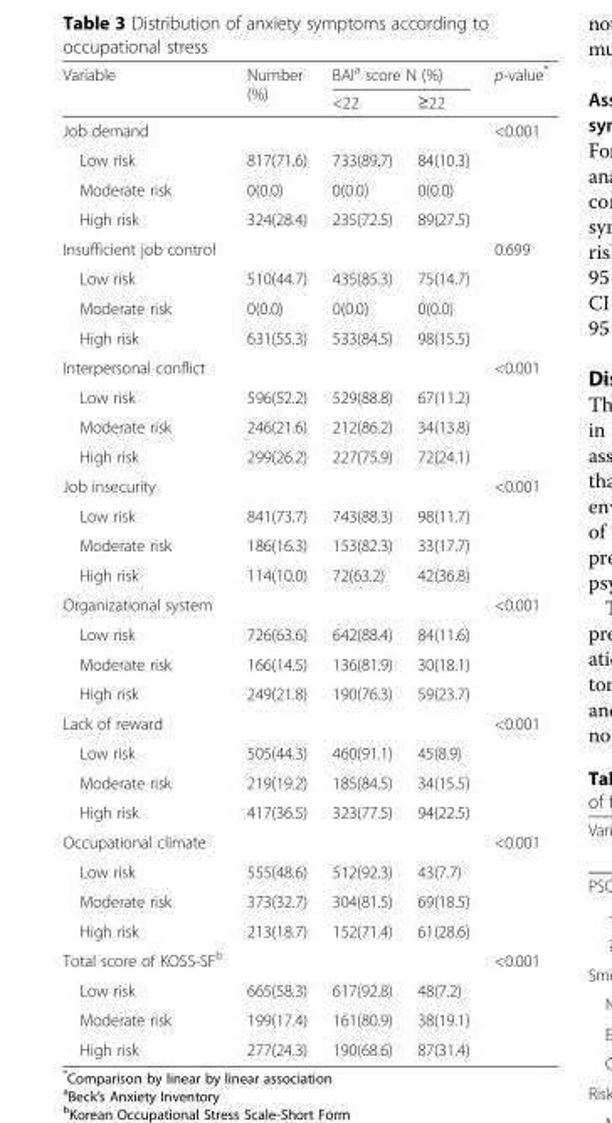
<table><thead><tr><td rowspan="2">Variable</td><td rowspan="2">Number (%)</td><td colspan="2">BAI<sup>a</sup> score N (%)</td><td rowspan="2">p-value*</td></tr><tr><td>&lt;22</td><td>≥22</td></tr></thead><tbody><tr><td>Job demand</td><td></td><td></td><td></td><td>&lt;0.001</td></tr><tr><td>Low risk</td><td>817(71.6)</td><td>733(89.7)</td><td>84(10.3)</td><td></td></tr><tr><td>Moderate risk</td><td>0(0.0)</td><td>0(0.0)</td><td>0(0.0)</td><td></td></tr><tr><td>High risk</td><td>324(28.4)</td><td>235(72.5)</td><td>89(27.5)</td><td></td></tr><tr><td>Insufficient job control</td><td></td><td></td><td></td><td>0.699</td></tr><tr><td>Low risk</td><td>510(44.7)</td><td>435(85.3)</td><td>75(14.7)</td><td></td></tr><tr><td>Moderate risk</td><td>0(0.0)</td><td>0(0.0)</td><td>0(0.0)</td><td></td></tr><tr><td>High risk</td><td>631(55.3)</td><td>533(84.5)</td><td>98(15.5)</td><td></td></tr><tr><td>Interpersonal conflict</td><td></td><td></td><td></td><td>&lt;0.001</td></tr><tr><td>Low risk</td><td>596(52.2)</td><td>529(88.8)</td><td>67(11.2)</td><td></td></tr><tr><td>Moderate risk</td><td>246(21.6)</td><td>212(86.2)</td><td>34(13.8)</td><td></td></tr><tr><td>High risk</td><td>299(26.2)</td><td>227(75.9)</td><td>72(24.1)</td><td></td></tr><tr><td>Job insecurity</td><td></td><td></td><td></td><td>&lt;0.001</td></tr><tr><td>Low risk</td><td>841(73.7)</td><td>743(88.3)</td><td>98(11.7)</td><td></td></tr><tr><td>Moderate risk</td><td>186(16.3)</td><td>153(82.3)</td><td>33(17.7)</td><td></td></tr><tr><td>High risk</td><td>114(10.0)</td><td>72(63.2)</td><td>42(36.8)</td><td></td></tr><tr><td>Organizational system</td><td></td><td></td><td></td><td>&lt;0.001</td></tr><tr><td>Low risk</td><td>726(63.6)</td><td>642(88.4)</td><td>84(11.6)</td><td></td></tr><tr><td>Moderate risk</td><td>166(14.5)</td><td>136(81.9)</td><td>30(18.1)</td><td></td></tr><tr><td>High risk</td><td>249(21.8)</td><td>190(76.3)</td><td>59(23.7)</td><td></td></tr><tr><td>Lack of reward</td><td></td><td></td><td></td><td>&lt;0.001</td></tr><tr><td>Low risk</td><td>505(44.3)</td><td>460(91.1)</td><td>45(8.9)</td><td></td></tr><tr><td>Moderate risk</td><td>219(19.2)</td><td>185(84.5)</td><td>34(15.5)</td><td></td></tr><tr><td>High risk</td><td>417(36.5)</td><td>323(77.5)</td><td>94(22.5)</td><td></td></tr><tr><td>Occupational climate</td><td></td><td></td><td></td><td>&lt;0.001</td></tr><tr><td>Low risk</td><td>555(48.6)</td><td>512(92.3)</td><td>43(7.7)</td><td></td></tr><tr><td>Moderate risk</td><td>373(32.7)</td><td>304(81.5)</td><td>69(18.5)</td><td></td></tr><tr><td>High risk</td><td>213(18.7)</td><td>152(71.4)</td><td>61(28.6)</td><td></td></tr><tr><td>Total score of KOSS-SF<sup>b</sup></td><td></td><td></td><td></td><td>&lt;0.001</td></tr><tr><td>Low risk</td><td>665(58.3)</td><td>617(92.8)</td><td>48(7.2)</td><td></td></tr><tr><td>Moderate risk</td><td>199(17.4)</td><td>161(80.9)</td><td>38(19.1)</td><td></td></tr><tr><td>High risk</td><td>277(24.3)</td><td>190(68.6)</td><td>87(31.4)</td><td></td></tr></tbody></table>